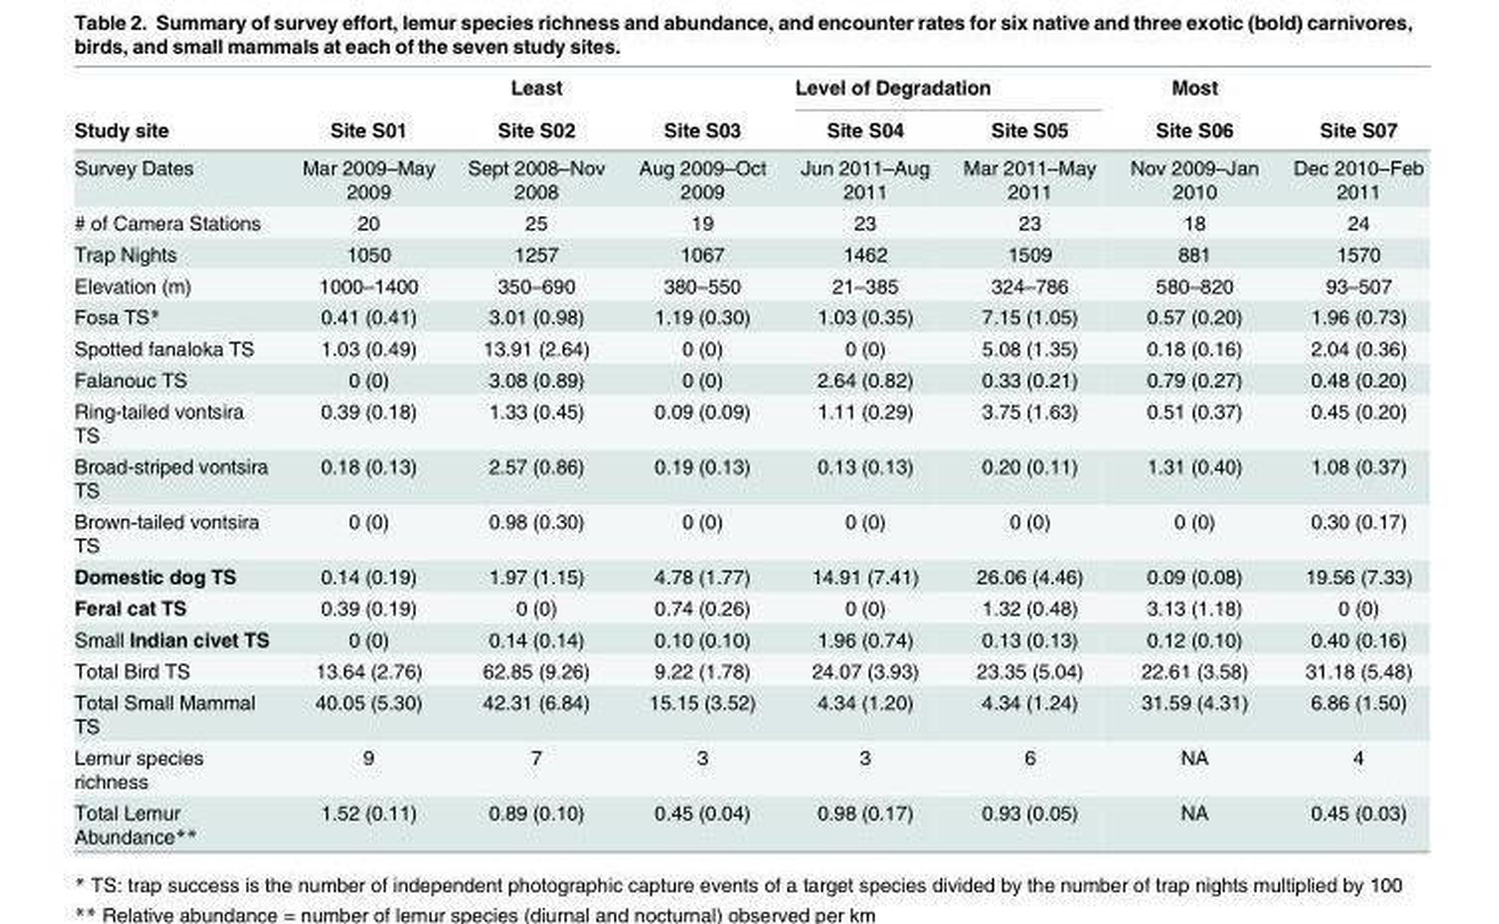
<table><thead><tr><td rowspan="2">Study site</td><td rowspan="2">Site S01</td><td rowspan="2">Least Site S02</td><td rowspan="2">Site S03</td><td colspan="2">Level of Degradation</td><td rowspan="2">Most Site S06</td><td rowspan="2">Site S07</td></tr><tr><td>Site S04</td><td>Site S05</td></tr></thead><tbody><tr><td>Survey Dates</td><td>Mar 2009–May 2009</td><td>Sept 2008–Nov 2008</td><td>Aug 2009–Oct 2009</td><td>Jun 2011–Aug 2011</td><td>Mar 2011–May 2011</td><td>Nov 2009–Jan 2010</td><td>Dec 2010–Feb 2011</td></tr><tr><td># of Camera Stations</td><td>20</td><td>25</td><td>19</td><td>23</td><td>23</td><td>18</td><td>24</td></tr><tr><td>Trap Nights</td><td>1050</td><td>1257</td><td>1067</td><td>1462</td><td>1509</td><td>881</td><td>1570</td></tr><tr><td>Elevation (m)</td><td>1000–1400</td><td>350–690</td><td>380–550</td><td>21–385</td><td>324–786</td><td>580–820</td><td>93–507</td></tr><tr><td>Fosa TS*</td><td>0.41 (0.41)</td><td>3.01 (0.98)</td><td>1.19 (0.30)</td><td>1.03 (0.35)</td><td>7.15 (1.05)</td><td>0.57 (0.20)</td><td>1.96 (0.73)</td></tr><tr><td>Spotted fanaloka TS</td><td>1.03 (0.49)</td><td>13.91 (2.64)</td><td>0 (0)</td><td>0 (0)</td><td>5.08 (1.35)</td><td>0.18 (0.16)</td><td>2.04 (0.36)</td></tr><tr><td>Falanouc TS</td><td>0 (0)</td><td>3.08 (0.89)</td><td>0 (0)</td><td>2.64 (0.82)</td><td>0.33 (0.21)</td><td>0.79 (0.27)</td><td>0.48 (0.20)</td></tr><tr><td>Ring-tailed vontsira TS</td><td>0.39 (0.18)</td><td>1.33 (0.45)</td><td>0.09 (0.09)</td><td>1.11 (0.29)</td><td>3.75 (1.63)</td><td>0.51 (0.37)</td><td>0.45 (0.20)</td></tr><tr><td>Broad-striped vontsira TS</td><td>0.18 (0.13)</td><td>2.57 (0.86)</td><td>0.19 (0.13)</td><td>0.13 (0.13)</td><td>0.20 (0.11)</td><td>1.31 (0.40)</td><td>1.08 (0.37)</td></tr><tr><td>Brown-tailed vontsira TS</td><td>0 (0)</td><td>0.98 (0.30)</td><td>0 (0)</td><td>0 (0)</td><td>0 (0)</td><td>0 (0)</td><td>0.30 (0.17)</td></tr><tr><td>Domestic dog TS</td><td>0.14 (0.19)</td><td>1.97 (1.15)</td><td>4.78 (1.77)</td><td>14.91 (7.41)</td><td>26.06 (4.46)</td><td>0.09 (0.08)</td><td>19.56 (7.33)</td></tr><tr><td>Feral cat TS</td><td>0.39 (0.19)</td><td>0 (0)</td><td>0.74 (0.26)</td><td>0 (0)</td><td>1.32 (0.48)</td><td>3.13 (1.18)</td><td>0 (0)</td></tr><tr><td>Small Indian civet TS</td><td>0 (0)</td><td>0.14 (0.14)</td><td>0.10 (0.10)</td><td>1.96 (0.74)</td><td>0.13 (0.13)</td><td>0.12 (0.10)</td><td>0.40 (0.16)</td></tr><tr><td>Total Bird TS</td><td>13.64 (2.76)</td><td>62.85 (9.26)</td><td>9.22 (1.78)</td><td>24.07 (3.93)</td><td>23.35 (5.04)</td><td>22.61 (3.58)</td><td>31.18 (5.48)</td></tr><tr><td>Total Small Mammal TS</td><td>40.05 (5.30)</td><td>42.31 (6.84)</td><td>15.15 (3.52)</td><td>4.34 (1.20)</td><td>4.34 (1.24)</td><td>31.59 (4.31)</td><td>6.86 (1.50)</td></tr><tr><td>Lemur species richness</td><td>9</td><td>7</td><td>3</td><td>3</td><td>6</td><td>NA</td><td>4</td></tr><tr><td>Total Lemur Abundance**</td><td>1.52 (0.11)</td><td>0.89 (0.10)</td><td>0.45 (0.04)</td><td>0.98 (0.17)</td><td>0.93 (0.05)</td><td>NA</td><td>0.45 (0.03)</td></tr></tbody></table>